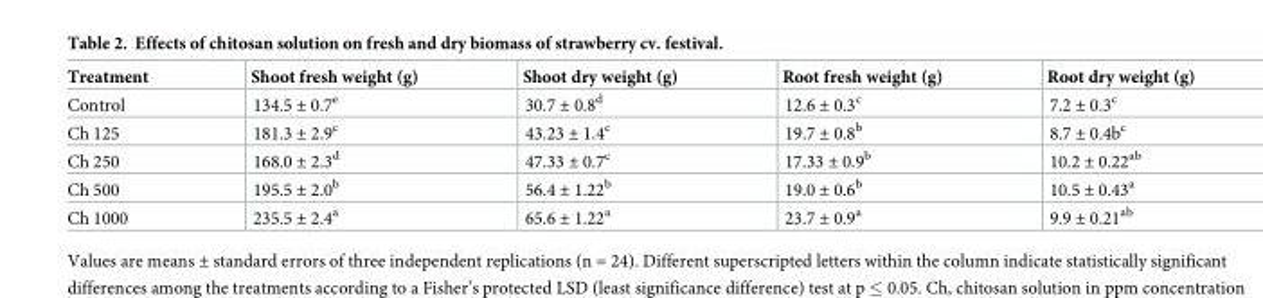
<table><thead><tr><td>Treatment</td><td>Shoot fresh weight (g)</td><td>Shoot dry weight (g)</td><td>Root fresh weight (g)</td><td>Root dry weight (g)</td></tr></thead><tbody><tr><td>Control</td><td>134.5 ± 0.7<sup>e</sup></td><td>30.7 ± 0.8<sup>d</sup></td><td>12.6 ± 0.3<sup>c</sup></td><td>7.2 ± 0.3<sup>c</sup></td></tr><tr><td>Ch 125</td><td>181.3 ± 2.9<sup>c</sup></td><td>43.23 ± 1.4<sup>c</sup></td><td>19.7 ± 0.8<sup>b</sup></td><td>8.7 ± 0.4b<sup>c</sup></td></tr><tr><td>Ch 250</td><td>168.0 ± 2.3<sup>d</sup></td><td>47.33 ± 0.7<sup>c</sup></td><td>17.33 ± 0.9<sup>b</sup></td><td>10.2 ± 0.22<sup>ab</sup></td></tr><tr><td>Ch 500</td><td>195.5 ± 2.0<sup>b</sup></td><td>56.4 ± 1.22<sup>b</sup></td><td>19.0 ± 0.6<sup>b</sup></td><td>10.5 ± 0.43<sup>a</sup></td></tr><tr><td>Ch 1000</td><td>235.5 ± 2.4<sup>a</sup></td><td>65.6 ± 1.22<sup>a</sup></td><td>23.7 ± 0.9<sup>a</sup></td><td>9.9 ± 0.21<sup>ab</sup></td></tr></tbody></table>